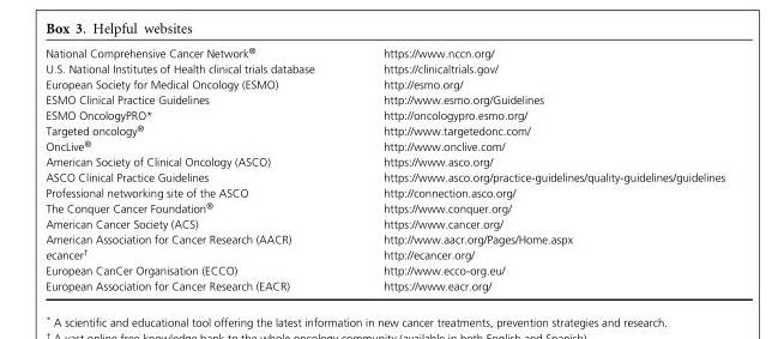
<table><tbody><tr><td>National Comprehensive Cancer Network<sup>®</sup></td><td>https://www.nccn.org/</td></tr><tr><td>U.S. National Institutes of Health clinical trials database</td><td>https://clinicaltrials.gov/</td></tr><tr><td>European Society for Medical Oncology (ESMO)</td><td>http://esmo.org/</td></tr><tr><td>ESMO Clinical Practice Guidelines</td><td>http://www.esmo.org/Guidelines</td></tr><tr><td>ESMO OncologyPRO*</td><td>http://oncologypro.esmo.org/</td></tr><tr><td>Targeted oncology<sup>®</sup></td><td>http://www.targetedonc.com/</td></tr><tr><td>OncLive<sup>®</sup></td><td>http://www.onclive.com/</td></tr><tr><td>American Society of Clinical Oncology (ASCO)</td><td>https://www.asco.org/</td></tr><tr><td>ASCO Clinical Practice Guidelines</td><td>https://www.asco.org/practice-guidelines/quality-guidelines/guidelines</td></tr><tr><td>Professional networking site of the ASCO</td><td>http://connection.asco.org/</td></tr><tr><td>The Conquer Cancer Foundation<sup>®</sup></td><td>https://www.conquer.org/</td></tr><tr><td>American Cancer Society (ACS)</td><td>https://www.cancer.org/</td></tr><tr><td>American Association for Cancer Research (AACR)</td><td>http://www.aacr.org/Pages/Home.aspx</td></tr><tr><td>ecancer†</td><td>http://ecancer.org/</td></tr><tr><td>European CanCer Organisation (ECCO)</td><td>http://www.ecco-org.eu/</td></tr><tr><td>European Association for Cancer Research (EACR)</td><td>https://www.eacr.org/</td></tr></tbody></table>